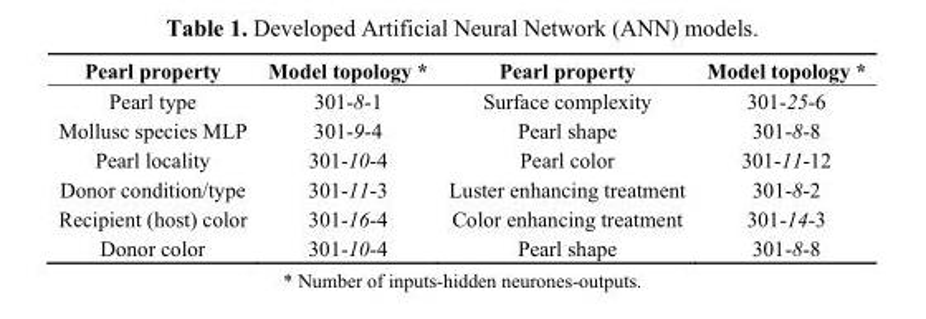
<table><thead><tr><td>Pearl property</td><td>Model topology *</td><td>Pearl property</td><td>Model topology *</td></tr></thead><tbody><tr><td>Pearl type</td><td>301-8-1</td><td>Surface complexity</td><td>301-25-6</td></tr><tr><td>Mollusc species MLP</td><td>301-9-4</td><td>Pearl shape</td><td>301-8-8</td></tr><tr><td>Pearl locality</td><td>301-10-4</td><td>Pearl color</td><td>301-11-12</td></tr><tr><td>Donor condition/type</td><td>301-11-3</td><td>Luster enhancing treatment</td><td>301-8-2</td></tr><tr><td>Recipient (host) color</td><td>301-16-4</td><td>Color enhancing treatment</td><td>301-14-3</td></tr><tr><td>Donor color</td><td>301-10-4</td><td>Pearl shape</td><td>301-8-8</td></tr></tbody></table>